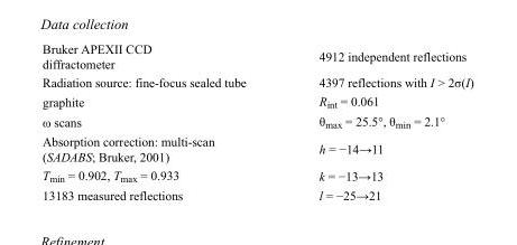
<table><tbody><tr><td>Bruker APEXII CCD diffractometer</td><td>4912 independent reflections</td></tr><tr><td>Radiation source: fine-focus sealed tube</td><td>4397 reflections with I &gt; 2σ(I)</td></tr><tr><td>graphite</td><td>Rint = 0.061</td></tr><tr><td>ω scans</td><td>θmax = 25.5°, θmin = 2.1°</td></tr><tr><td>Absorption correction: multi-scan (SADABS; Bruker, 2001)</td><td>h = −14→11</td></tr><tr><td>Tmin = 0.902, Tmax = 0.933</td><td>k = −13→13</td></tr><tr><td>13183 measured reflections</td><td>l = −25→21</td></tr></tbody></table>